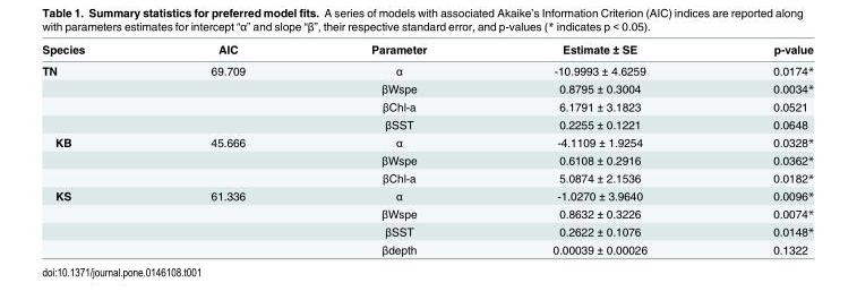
<table><thead><tr><td>Species</td><td>AIC</td><td>Parameter</td><td>Estimate ± SE</td><td>p-value</td></tr></thead><tbody><tr><td rowspan="4">TN</td><td>69.709</td><td>α</td><td>-10.9993 ± 4.6259</td><td>0.0174*</td></tr><tr><td></td><td>βWspe</td><td>0.8795 ± 0.3004</td><td>0.0034*</td></tr><tr><td></td><td>βChl-a</td><td>6.1791 ± 3.1823</td><td>0.0521</td></tr><tr><td></td><td>βSST</td><td>0.2255 ± 0.1221</td><td>0.0648</td></tr><tr><td rowspan="3">KB</td><td>45.666</td><td>α</td><td>-4.1109 ± 1.9254</td><td>0.0328*</td></tr><tr><td></td><td>βWspe</td><td>0.6108 ± 0.2916</td><td>0.0362*</td></tr><tr><td></td><td>βChl-a</td><td>5.0874 ± 2.1536</td><td>0.0182*</td></tr><tr><td rowspan="4">KS</td><td>61.336</td><td>α</td><td>-1.0270 ± 3.9640</td><td>0.0096*</td></tr><tr><td></td><td>βWspe</td><td>0.8632 ± 0.3226</td><td>0.0074*</td></tr><tr><td></td><td>βSST</td><td>0.2622 ± 0.1076</td><td>0.0148*</td></tr><tr><td></td><td>βdepth</td><td>0.00039 ± 0.00026</td><td>0.1322</td></tr></tbody></table>